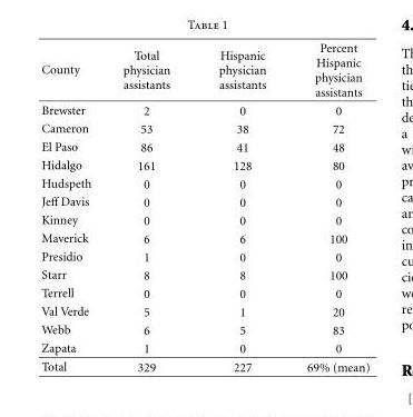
<table><thead><tr><td>County</td><td>Total physician assistants</td><td>Hispanic physician assistants</td><td>Percent Hispanic physician assistants</td></tr></thead><tbody><tr><td>Brewster</td><td>2</td><td>0</td><td>0</td></tr><tr><td>Cameron</td><td>53</td><td>38</td><td>72</td></tr><tr><td>El Paso</td><td>86</td><td>41</td><td>48</td></tr><tr><td>Hidalgo</td><td>161</td><td>128</td><td>80</td></tr><tr><td>Hudspeth</td><td>0</td><td>0</td><td>0</td></tr><tr><td>Jeff Davis</td><td>0</td><td>0</td><td>0</td></tr><tr><td>Kinney</td><td>0</td><td>0</td><td>0</td></tr><tr><td>Maverick</td><td>6</td><td>6</td><td>100</td></tr><tr><td>Presidio</td><td>1</td><td>0</td><td>0</td></tr><tr><td>Starr</td><td>8</td><td>8</td><td>100</td></tr><tr><td>Terrell</td><td>0</td><td>0</td><td>0</td></tr><tr><td>Val Verde</td><td>5</td><td>1</td><td>20</td></tr><tr><td>Webb</td><td>6</td><td>5</td><td>83</td></tr><tr><td>Zapata</td><td>1</td><td>0</td><td>0</td></tr><tr><td>Total</td><td>329</td><td>227</td><td>69% (mean)</td></tr></tbody></table>